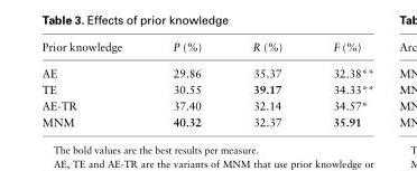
<table><thead><tr><td>Prior knowledge</td><td>P (%)</td><td>R (%)</td><td>F (%)</td></tr></thead><tbody><tr><td>AE</td><td>29.86</td><td>35.37</td><td>32.38**</td></tr><tr><td>TE</td><td>30.55</td><td>39.17</td><td>34.33**</td></tr><tr><td>AE-TR</td><td>37.40</td><td>32.14</td><td>34.57*</td></tr><tr><td>MNM</td><td>40.32</td><td>32.37</td><td>35.91</td></tr></tbody></table>